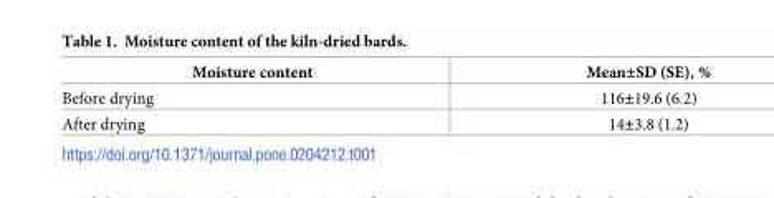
<table><thead><tr><td>Moisture content</td><td>Mean±SD (SE), %</td></tr></thead><tbody><tr><td>Before drying</td><td>116±19.6 (6.2)</td></tr><tr><td>After drying</td><td>14±3.8 (1.2)</td></tr></tbody></table>